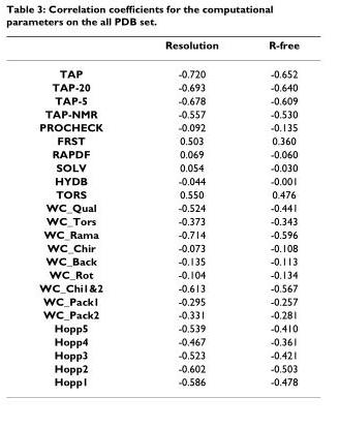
<table><thead><tr><td></td><td>Resolution</td><td>R-free</td></tr></thead><tbody><tr><td>TAP</td><td>-0.720</td><td>-0.652</td></tr><tr><td>TAP-20</td><td>-0.693</td><td>-0.640</td></tr><tr><td>TAP-5</td><td>-0.678</td><td>-0.609</td></tr><tr><td>TAP-NMR</td><td>-0.557</td><td>-0.530</td></tr><tr><td>PROCHECK</td><td>-0.092</td><td>-0.135</td></tr><tr><td>FRST</td><td>0.503</td><td>0.360</td></tr><tr><td>RAPDF</td><td>0.069</td><td>-0.060</td></tr><tr><td>SOLV</td><td>0.054</td><td>-0.030</td></tr><tr><td>HYDB</td><td>-0.044</td><td>-0.001</td></tr><tr><td>TORS</td><td>0.550</td><td>0.476</td></tr><tr><td>WC_Qual</td><td>-0.524</td><td>-0.441</td></tr><tr><td>WC_Tors</td><td>-0.373</td><td>-0.343</td></tr><tr><td>WC_Rama</td><td>-0.714</td><td>-0.596</td></tr><tr><td>WC_Chir</td><td>-0.073</td><td>-0.108</td></tr><tr><td>WC_Back</td><td>-0.135</td><td>-0.113</td></tr><tr><td>WC_Rot</td><td>-0.104</td><td>-0.134</td></tr><tr><td>WC_Chi1&amp;2</td><td>-0.613</td><td>-0.567</td></tr><tr><td>WC_Pack1</td><td>-0.295</td><td>-0.257</td></tr><tr><td>WC_Pack2</td><td>-0.331</td><td>-0.281</td></tr><tr><td>Hopp5</td><td>-0.539</td><td>-0.410</td></tr><tr><td>Hopp4</td><td>-0.467</td><td>-0.361</td></tr><tr><td>Hopp3</td><td>-0.523</td><td>-0.421</td></tr><tr><td>Hopp2</td><td>-0.602</td><td>-0.503</td></tr><tr><td>Hopp1</td><td>-0.586</td><td>-0.478</td></tr></tbody></table>